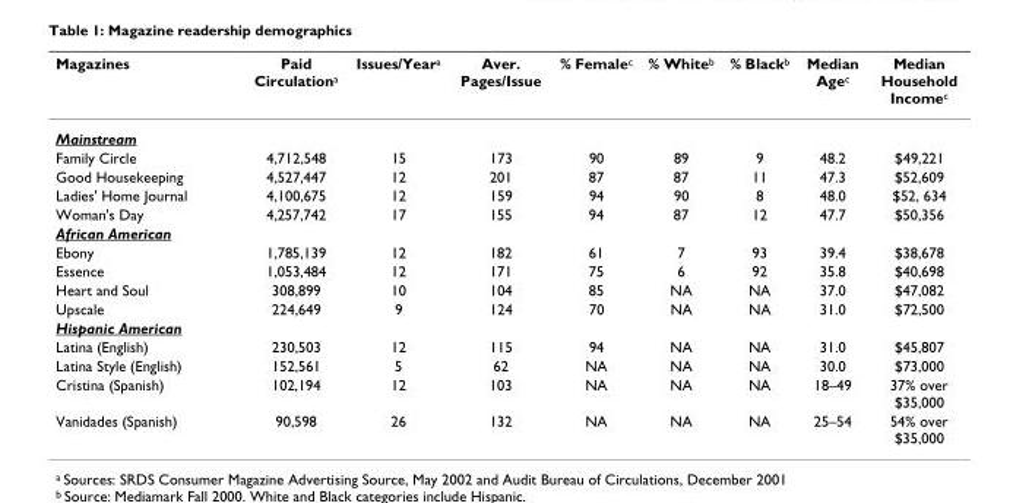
<table><thead><tr><td>Magazines</td><td>Paid Circulation<sup>a</sup></td><td>Issues/Year<sup>a</sup></td><td>Aver. Pages/Issue</td><td>% Female<sup>c</sup></td><td>% White<sup>b</sup></td><td>% Black<sup>b</sup></td><td>Median Age<sup>c</sup></td><td>Median Household Income<sup>c</sup></td></tr></thead><tbody><tr><td colspan="9">Mainstream</td></tr><tr><td>Family Circle</td><td>4,712,548</td><td>15</td><td>173</td><td>90</td><td>89</td><td>9</td><td>48.2</td><td>$49,221</td></tr><tr><td>Good Housekeeping</td><td>4,527,447</td><td>12</td><td>201</td><td>87</td><td>87</td><td>11</td><td>47.3</td><td>$52,609</td></tr><tr><td>Ladies&#x27; Home Journal</td><td>4,100,675</td><td>12</td><td>159</td><td>94</td><td>90</td><td>8</td><td>48.0</td><td>$52, 634</td></tr><tr><td>Woman&#x27;s Day</td><td>4,257,742</td><td>17</td><td>155</td><td>94</td><td>87</td><td>12</td><td>47.7</td><td>$50,356</td></tr><tr><td colspan="9">African American</td></tr><tr><td>Ebony</td><td>1,785,139</td><td>12</td><td>182</td><td>61</td><td>7</td><td>93</td><td>39.4</td><td>$38,678</td></tr><tr><td>Essence</td><td>1,053,484</td><td>12</td><td>171</td><td>75</td><td>6</td><td>92</td><td>35.8</td><td>$40,698</td></tr><tr><td>Heart and Soul</td><td>308,899</td><td>10</td><td>104</td><td>85</td><td>NA</td><td>NA</td><td>37.0</td><td>$47,082</td></tr><tr><td>Upscale</td><td>224,649</td><td>9</td><td>124</td><td>70</td><td>NA</td><td>NA</td><td>31.0</td><td>$72,500</td></tr><tr><td colspan="9">Hispanic American</td></tr><tr><td>Latina (English)</td><td>230,503</td><td>12</td><td>115</td><td>94</td><td>NA</td><td>NA</td><td>31.0</td><td>$45,807</td></tr><tr><td>Latina Style (English)</td><td>152,561</td><td>5</td><td>62</td><td>NA</td><td>NA</td><td>NA</td><td>30.0</td><td>$73,000</td></tr><tr><td>Cristina (Spanish)</td><td>102,194</td><td>12</td><td>103</td><td>NA</td><td>NA</td><td>NA</td><td>18–49</td><td>37% over $35,000</td></tr><tr><td>Vanidades (Spanish)</td><td>90,598</td><td>26</td><td>132</td><td>NA</td><td>NA</td><td>NA</td><td>25–54</td><td>54% over $35,000</td></tr></tbody></table>